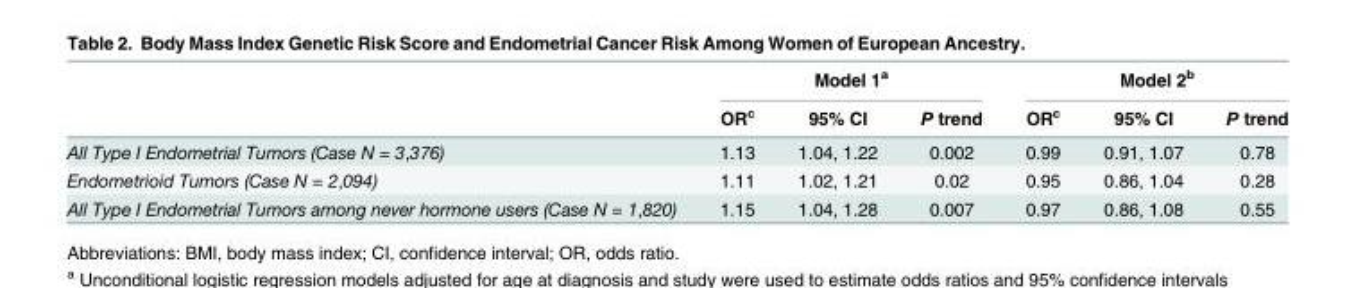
<table><thead><tr><td rowspan="2"></td><td colspan="3">Model 1<sup>a</sup></td><td colspan="3">Model 2<sup>b</sup></td></tr><tr><td>OR<sup>c</sup></td><td>95% CI</td><td>P trend</td><td>OR<sup>c</sup></td><td>95% CI</td><td>P trend</td></tr></thead><tbody><tr><td>All Type I Endometrial Tumors (Case N = 3,376)</td><td>1.13</td><td>1.04, 1.22</td><td>0.002</td><td>0.99</td><td>0.91, 1.07</td><td>0.78</td></tr><tr><td>Endometrioid Tumors (Case N = 2,094)</td><td>1.11</td><td>1.02, 1.21</td><td>0.02</td><td>0.95</td><td>0.86, 1.04</td><td>0.28</td></tr><tr><td>All Type I Endometrial Tumors among never hormone users (Case N = 1,820)</td><td>1.15</td><td>1.04, 1.28</td><td>0.007</td><td>0.97</td><td>0.86, 1.08</td><td>0.55</td></tr></tbody></table>